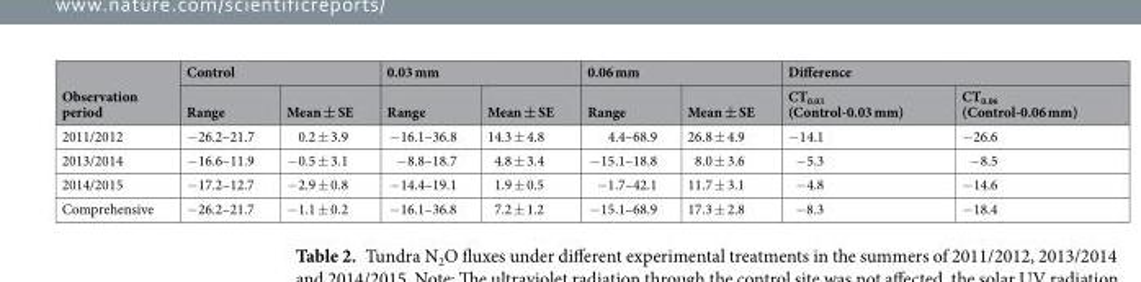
<table><thead><tr><td rowspan="2">Observation period</td><td colspan="2">Control</td><td colspan="2">0.03 mm</td><td colspan="2">0.06 mm</td><td colspan="2">Difference</td></tr><tr><td>Range</td><td>Mean ± SE</td><td>Range</td><td>Mean ± SE</td><td>Range</td><td>Mean ± SE</td><td>CT<sub>0.03</sub> (Control-0.03 mm)</td><td>CT<sub>0.06</sub> (Control-0.06 mm)</td></tr></thead><tbody><tr><td>2011/2012</td><td>−26.2–21.7</td><td>0.2 ± 3.9</td><td>−16.1–36.8</td><td>14.3 ± 4.8</td><td>4.4–68.9</td><td>26.8 ± 4.9</td><td>−14.1</td><td>−26.6</td></tr><tr><td>2013/2014</td><td>−16.6–11.9</td><td>−0.5 ± 3.1</td><td>−8.8–18.7</td><td>4.8 ± 3.4</td><td>−15.1–18.8</td><td>8.0 ± 3.6</td><td>−5.3</td><td>−8.5</td></tr><tr><td>2014/2015</td><td>−17.2–12.7</td><td>−2.9 ± 0.8</td><td>−14.4–19.1</td><td>1.9 ± 0.5</td><td>−1.7–42.1</td><td>11.7 ± 3.1</td><td>−4.8</td><td>−14.6</td></tr><tr><td>Comprehensive</td><td>−26.2–21.7</td><td>−1.1 ± 0.2</td><td>−16.1–36.8</td><td>7.2 ± 1.2</td><td>−15.1–68.9</td><td>17.3 ± 2.8</td><td>−8.3</td><td>−18.4</td></tr></tbody></table>